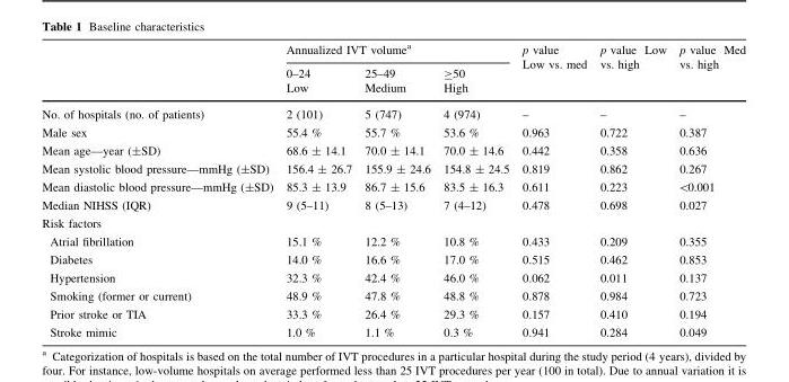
<table><thead><tr><td rowspan="2"></td><td colspan="3">Annualized IVT volume<sup>a</sup></td><td rowspan="2">p value Low vs. med</td><td rowspan="2">p value Low vs. high</td><td rowspan="2">p value Med vs. high</td></tr><tr><td>0–24 Low</td><td>25–49 Medium</td><td>≥50 High</td></tr></thead><tbody><tr><td>No. of hospitals (no. of patients)</td><td>2 (101)</td><td>5 (747)</td><td>4 (974)</td><td>–</td><td>–</td><td>–</td></tr><tr><td>Male sex</td><td>55.4 %</td><td>55.7 %</td><td>53.6 %</td><td>0.963</td><td>0.722</td><td>0.387</td></tr><tr><td>Mean age—year (±SD)</td><td>68.6 ± 14.1</td><td>70.0 ± 14.1</td><td>70.0 ± 14.6</td><td>0.442</td><td>0.358</td><td>0.636</td></tr><tr><td>Mean systolic blood pressure—mmHg (±SD)</td><td>156.4 ± 26.7</td><td>155.9 ± 24.6</td><td>154.8 ± 24.5</td><td>0.819</td><td>0.862</td><td>0.267</td></tr><tr><td>Mean diastolic blood pressure—mmHg (±SD)</td><td>85.3 ± 13.9</td><td>86.7 ± 15.6</td><td>83.5 ± 16.3</td><td>0.611</td><td>0.223</td><td>&lt;0.001</td></tr><tr><td>Median NIHSS (IQR)</td><td>9 (5–11)</td><td>8 (5–13)</td><td>7 (4–12)</td><td>0.478</td><td>0.698</td><td>0.027</td></tr><tr><td colspan="7">Risk factors</td></tr><tr><td>Atrial fibrillation</td><td>15.1 %</td><td>12.2 %</td><td>10.8 %</td><td>0.433</td><td>0.209</td><td>0.355</td></tr><tr><td>Diabetes</td><td>14.0 %</td><td>16.6 %</td><td>17.0 %</td><td>0.515</td><td>0.462</td><td>0.853</td></tr><tr><td>Hypertension</td><td>32.3 %</td><td>42.4 %</td><td>46.0 %</td><td>0.062</td><td>0.011</td><td>0.137</td></tr><tr><td>Smoking (former or current)</td><td>48.9 %</td><td>47.8 %</td><td>48.8 %</td><td>0.878</td><td>0.984</td><td>0.723</td></tr><tr><td>Prior stroke or TIA</td><td>33.3 %</td><td>26.4 %</td><td>29.3 %</td><td>0.157</td><td>0.410</td><td>0.194</td></tr><tr><td>Stroke mimic</td><td>1.0 %</td><td>1.1 %</td><td>0.3 %</td><td>0.941</td><td>0.284</td><td>0.049</td></tr></tbody></table>